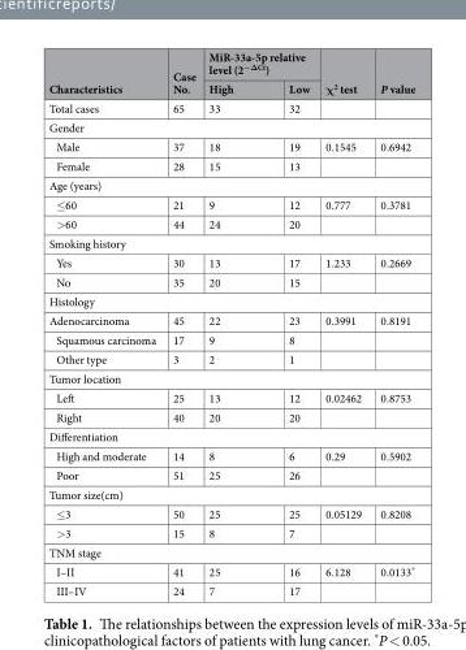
<table><thead><tr><td rowspan="2">Characteristics</td><td rowspan="2">Case No.</td><td colspan="2">MiR-33a-5p relative level (2<sup>−ΔCt</sup>)</td><td rowspan="2">χ<sup>2</sup> test</td><td rowspan="2">P value</td></tr><tr><td>High</td><td>Low</td></tr></thead><tbody><tr><td>Total cases</td><td>65</td><td>33</td><td>32</td><td></td><td></td></tr><tr><td colspan="6">Gender</td></tr><tr><td>Male</td><td>37</td><td>18</td><td>19</td><td>0.1545</td><td>0.6942</td></tr><tr><td>Female</td><td>28</td><td>15</td><td>13</td><td></td><td></td></tr><tr><td colspan="6">Age (years)</td></tr><tr><td>≤60</td><td>21</td><td>9</td><td>12</td><td>0.777</td><td>0.3781</td></tr><tr><td>&gt;60</td><td>44</td><td>24</td><td>20</td><td></td><td></td></tr><tr><td colspan="6">Smoking history</td></tr><tr><td>Yes</td><td>30</td><td>13</td><td>17</td><td>1.233</td><td>0.2669</td></tr><tr><td>No</td><td>35</td><td>20</td><td>15</td><td></td><td></td></tr><tr><td colspan="6">Histology</td></tr><tr><td>Adenocarcinoma</td><td>45</td><td>22</td><td>23</td><td>0.3991</td><td>0.8191</td></tr><tr><td>Squamous carcinoma</td><td>17</td><td>9</td><td>8</td><td></td><td></td></tr><tr><td>Other type</td><td>3</td><td>2</td><td>1</td><td></td><td></td></tr><tr><td colspan="6">Tumor location</td></tr><tr><td>Left</td><td>25</td><td>13</td><td>12</td><td>0.02462</td><td>0.8753</td></tr><tr><td>Right</td><td>40</td><td>20</td><td>20</td><td></td><td></td></tr><tr><td colspan="6">Differentiation</td></tr><tr><td>High and moderate</td><td>14</td><td>8</td><td>6</td><td>0.29</td><td>0.5902</td></tr><tr><td>Poor</td><td>51</td><td>25</td><td>26</td><td></td><td></td></tr><tr><td colspan="6">Tumor size(cm)</td></tr><tr><td>≤3</td><td>50</td><td>25</td><td>25</td><td>0.05129</td><td>0.8208</td></tr><tr><td>&gt;3</td><td>15</td><td>8</td><td>7</td><td></td><td></td></tr><tr><td colspan="6">TNM stage</td></tr><tr><td>I–II</td><td>41</td><td>25</td><td>16</td><td>6.128</td><td>0.0133*</td></tr><tr><td>III–IV</td><td>24</td><td>7</td><td>17</td><td></td><td></td></tr></tbody></table>